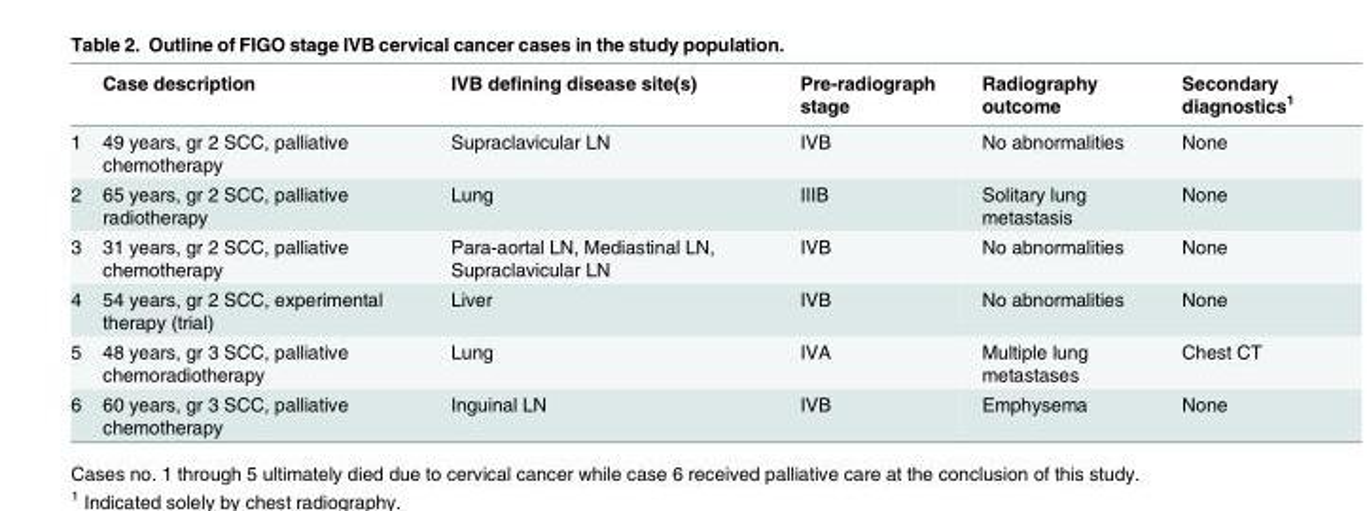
<table><thead><tr><td></td><td>Case description</td><td>IVB defining disease site(s)</td><td>Pre-radiograph stage</td><td>Radiography outcome</td><td>Secondary diagnostics<sup>1</sup></td></tr></thead><tbody><tr><td>1</td><td>49 years, gr 2 SCC, palliative chemotherapy</td><td>Supraclavicular LN</td><td>IVB</td><td>No abnormalities</td><td>None</td></tr><tr><td>2</td><td>65 years, gr 2 SCC, palliative radiotherapy</td><td>Lung</td><td>IIIB</td><td>Solitary lung metastasis</td><td>None</td></tr><tr><td>3</td><td>31 years, gr 2 SCC, palliative chemotherapy</td><td>Para-aortal LN, Mediastinal LN, Supraclavicular LN</td><td>IVB</td><td>No abnormalities</td><td>None</td></tr><tr><td>4</td><td>54 years, gr 2 SCC, experimental therapy (trial)</td><td>Liver</td><td>IVB</td><td>No abnormalities</td><td>None</td></tr><tr><td>5</td><td>48 years, gr 3 SCC, palliative chemoradiotherapy</td><td>Lung</td><td>IVA</td><td>Multiple lung metastases</td><td>Chest CT</td></tr><tr><td>6</td><td>60 years, gr 3 SCC, palliative chemotherapy</td><td>Inguinal LN</td><td>IVB</td><td>Emphysema</td><td>None</td></tr></tbody></table>